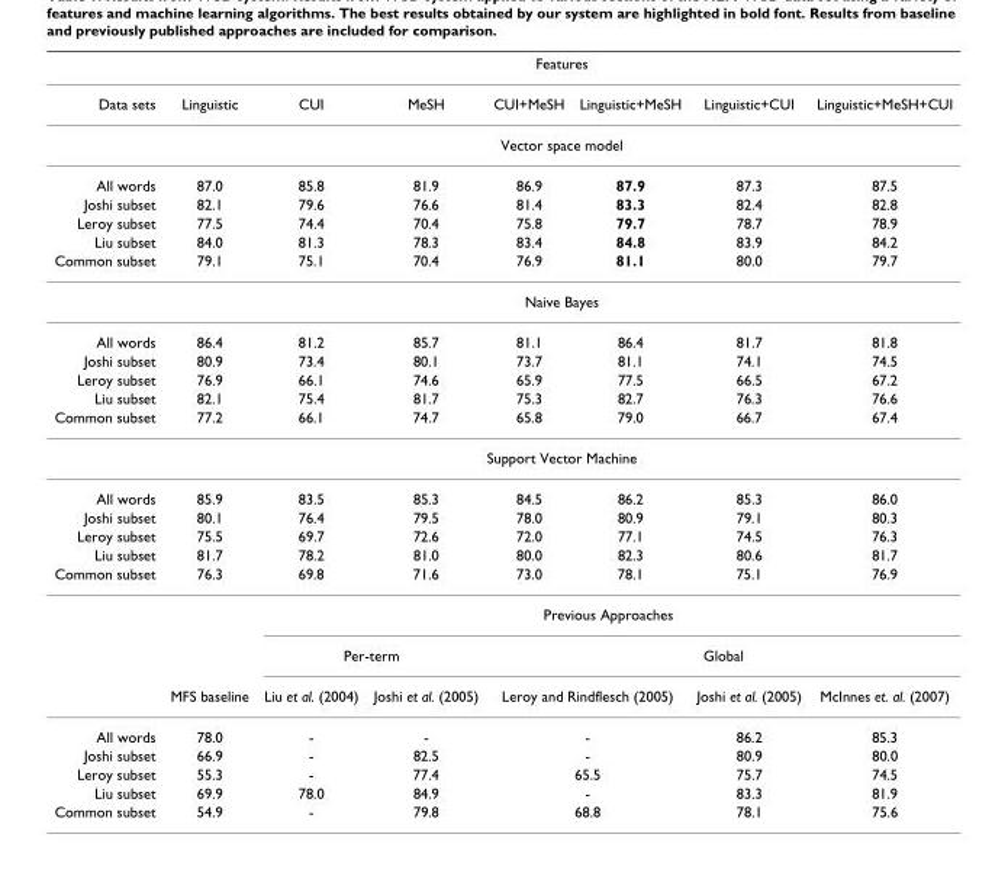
<table><thead><tr><td rowspan="2">Data sets</td><td colspan="7">Features</td></tr><tr><td>Linguistic</td><td>CUI</td><td>MeSH</td><td>CUI+MeSH</td><td>Linguistic+MeSH</td><td>Linguistic+CUI</td><td>Linguistic+MeSH+CUI</td></tr></thead><tbody><tr><td></td><td colspan="7">Vector space model</td></tr><tr><td>All words</td><td>87.0</td><td>85.8</td><td>81.9</td><td>86.9</td><td>87.9</td><td>87.3</td><td>87.5</td></tr><tr><td>Joshi subset</td><td>82.1</td><td>79.6</td><td>76.6</td><td>81.4</td><td>83.3</td><td>82.4</td><td>82.8</td></tr><tr><td>Leroy subset</td><td>77.5</td><td>74.4</td><td>70.4</td><td>75.8</td><td>79.7</td><td>78.7</td><td>78.9</td></tr><tr><td>Liu subset</td><td>84.0</td><td>81.3</td><td>78.3</td><td>83.4</td><td>84.8</td><td>83.9</td><td>84.2</td></tr><tr><td rowspan="2">Common subset</td><td>79.1</td><td>75.1</td><td>70.4</td><td>76.9</td><td>81.1</td><td>80.0</td><td>79.7</td></tr><tr><td colspan="7">Naive Bayes</td></tr><tr><td>All words</td><td>86.4</td><td>81.2</td><td>85.7</td><td>81.1</td><td>86.4</td><td>81.7</td><td>81.8</td></tr><tr><td>Joshi subset</td><td>80.9</td><td>73.4</td><td>80.1</td><td>73.7</td><td>81.1</td><td>74.1</td><td>74.5</td></tr><tr><td>Leroy subset</td><td>76.9</td><td>66.1</td><td>74.6</td><td>65.9</td><td>77.5</td><td>66.5</td><td>67.2</td></tr><tr><td>Liu subset</td><td>82.1</td><td>75.4</td><td>81.7</td><td>75.3</td><td>82.7</td><td>76.3</td><td>76.6</td></tr><tr><td rowspan="2">Common subset</td><td>77.2</td><td>66.1</td><td>74.7</td><td>65.8</td><td>79.0</td><td>66.7</td><td>67.4</td></tr><tr><td colspan="7">Support Vector Machine</td></tr><tr><td>All words</td><td>85.9</td><td>83.5</td><td>85.3</td><td>84.5</td><td>86.2</td><td>85.3</td><td>86.0</td></tr><tr><td>Joshi subset</td><td>80.1</td><td>76.4</td><td>79.5</td><td>78.0</td><td>80.9</td><td>79.1</td><td>80.3</td></tr><tr><td>Leroy subset</td><td>75.5</td><td>69.7</td><td>72.6</td><td>72.0</td><td>77.1</td><td>74.5</td><td>76.3</td></tr><tr><td>Liu subset</td><td>81.7</td><td>78.2</td><td>81.0</td><td>80.0</td><td>82.3</td><td>80.6</td><td>81.7</td></tr><tr><td rowspan="4">Common subset</td><td>76.3</td><td>69.8</td><td>71.6</td><td>73.0</td><td>78.1</td><td>75.1</td><td>76.9</td></tr><tr><td></td><td colspan="6">Previous Approaches</td></tr><tr><td></td><td colspan="2">Per-term</td><td colspan="4">Global</td></tr><tr><td>MFS baseline</td><td>Liu et al. (2004)</td><td>Joshi et al. (2005)</td><td colspan="2">Leroy and Rindflesch (2005)</td><td>Joshi et al. (2005)</td><td>McInnes et. al. (2007)</td></tr><tr><td>All words</td><td>78.0</td><td>-</td><td>-</td><td colspan="2">-</td><td>86.2</td><td>85.3</td></tr><tr><td>Joshi subset</td><td>66.9</td><td>-</td><td>82.5</td><td colspan="2">-</td><td>80.9</td><td>80.0</td></tr><tr><td>Leroy subset</td><td>55.3</td><td>-</td><td>77.4</td><td colspan="2">65.5</td><td>75.7</td><td>74.5</td></tr><tr><td>Liu subset</td><td>69.9</td><td>78.0</td><td>84.9</td><td colspan="2">-</td><td>83.3</td><td>81.9</td></tr><tr><td>Common subset</td><td>54.9</td><td>-</td><td>79.8</td><td colspan="2">68.8</td><td>78.1</td><td>75.6</td></tr></tbody></table>